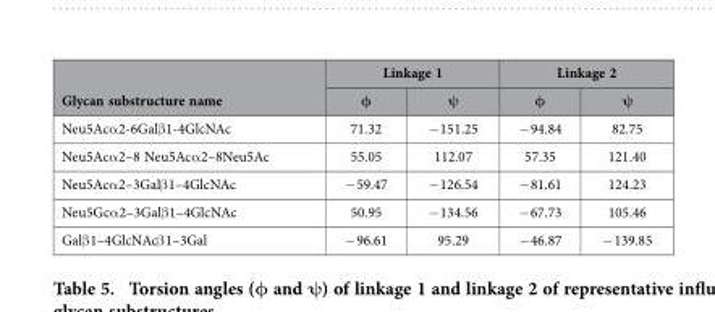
<table><thead><tr><td rowspan="2">Glycan substructure name</td><td colspan="2">Linkage 1</td><td colspan="2">Linkage 2</td></tr><tr><td>φ</td><td>ψ</td><td>φ</td><td>ψ</td></tr></thead><tbody><tr><td>Neu5Acα 2-6Galβ 1-4GlcNAc</td><td>71.32</td><td>− 151.25</td><td>− 94.84</td><td>82.75</td></tr><tr><td>Neu5Acα 2–8 Neu5Acα 2–8Neu5Ac</td><td>55.05</td><td>112.07</td><td>57.35</td><td>121.40</td></tr><tr><td>Neu5Acα 2–3Galβ 1–4GlcNAc</td><td>− 59.47</td><td>− 126.54</td><td>− 81.61</td><td>124.23</td></tr><tr><td>Neu5Gcα 2–3Galβ 1–4GlcNAc</td><td>50.95</td><td>− 134.56</td><td>− 67.73</td><td>105.46</td></tr><tr><td>Galβ 1–4GlcNAcβ 1–3Gal</td><td>− 96.61</td><td>95.29</td><td>− 46.87</td><td>− 139.85</td></tr></tbody></table>